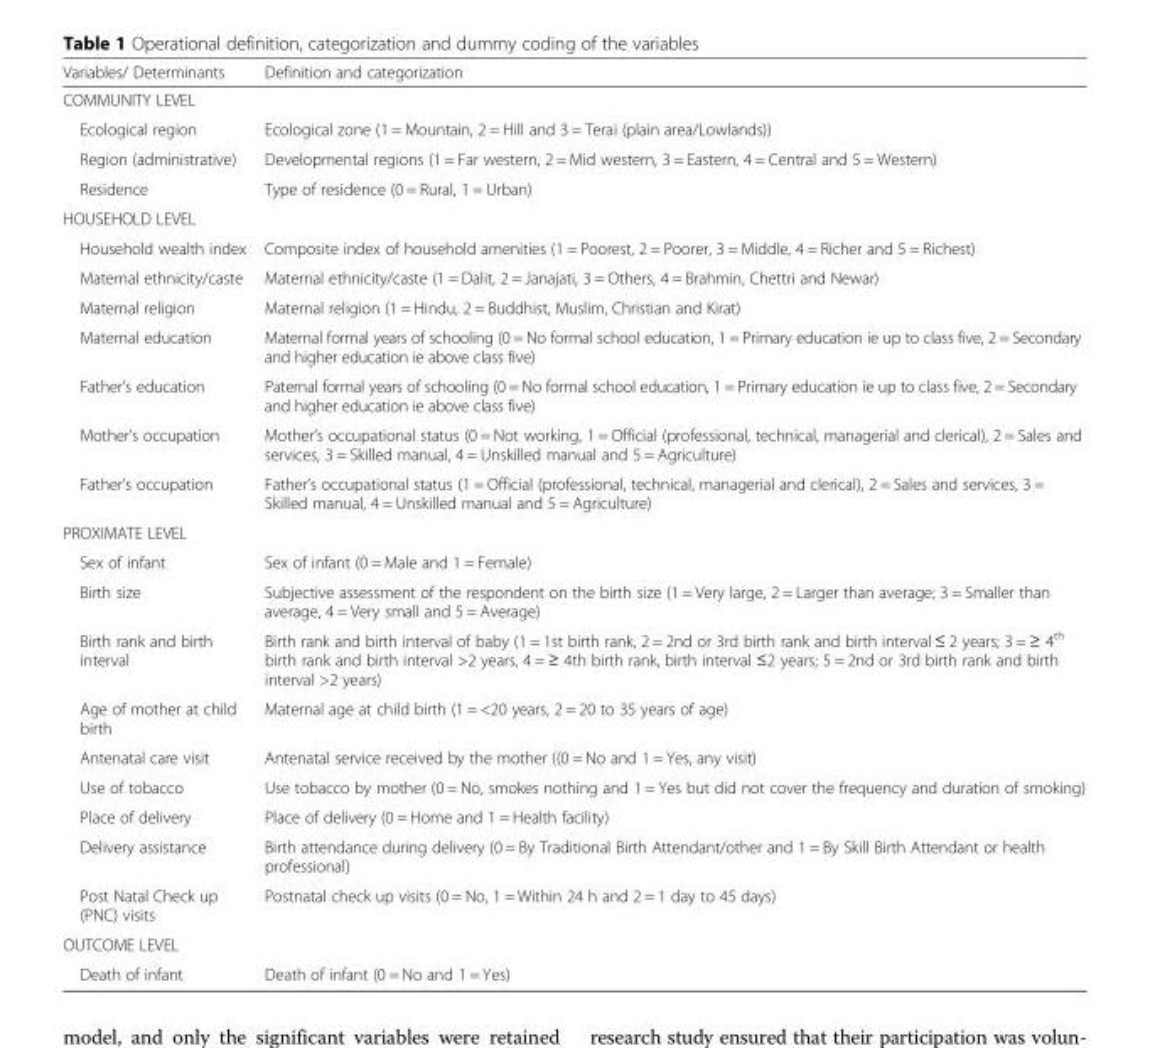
<table><thead><tr><td>Variables/ Determinants</td><td>Definition and categorization</td></tr></thead><tbody><tr><td colspan="2">COMMUNITY LEVEL</td></tr><tr><td>Ecological region</td><td>Ecological zone (1 = Mountain, 2 = Hill and 3 = Terai (plain area/Lowlands))</td></tr><tr><td>Region (administrative)</td><td>Developmental regions (1 = Far western, 2 = Mid western, 3 = Eastern, 4 = Central and 5 = Western)</td></tr><tr><td>Residence</td><td>Type of residence (0 = Rural, 1 = Urban)</td></tr><tr><td colspan="2">HOUSEHOLD LEVEL</td></tr><tr><td>Household wealth index</td><td>Composite index of household amenities (1 = Poorest, 2 = Poorer, 3 = Middle, 4 = Richer and 5 = Richest)</td></tr><tr><td>Maternal ethnicity/caste</td><td>Maternal ethnicity/caste (1 = Dalit, 2 = Janajati, 3 = Others, 4 = Brahmin, Chettri and Newar)</td></tr><tr><td>Maternal religion</td><td>Maternal religion (1 = Hindu, 2 = Buddhist, Muslim, Christian and Kirat)</td></tr><tr><td>Maternal education</td><td>Maternal formal years of schooling (0 = No formal school education, 1 = Primary education ie up to class five, 2 = Secondary and higher education ie above class five)</td></tr><tr><td>Father’s education</td><td>Paternal formal years of schooling (0 = No formal school education, 1 = Primary education ie up to class five, 2 = Secondary and higher education ie above class five)</td></tr><tr><td>Mother’s occupation</td><td>Mother’s occupational status (0 = Not working, 1 = Official (professional, technical, managerial and clerical), 2 = Sales and services, 3 = Skilled manual, 4 = Unskilled manual and 5 = Agriculture)</td></tr><tr><td>Father’s occupation</td><td>Father’s occupational status (1 = Official (professional, technical, managerial and clerical), 2 = Sales and services, 3 = Skilled manual, 4 = Unskilled manual and 5 = Agriculture)</td></tr><tr><td colspan="2">PROXIMATE LEVEL</td></tr><tr><td>Sex of infant</td><td>Sex of infant (0 = Male and 1 = Female)</td></tr><tr><td>Birth size</td><td>Subjective assessment of the respondent on the birth size (1 = Very large, 2 = Larger than average; 3 = Smaller than average, 4 = Very small and 5 = Average)</td></tr><tr><td>Birth rank and birth interval</td><td>Birth rank and birth interval of baby (1 = 1st birth rank, 2 = 2nd or 3rd birth rank and birth interval ≤ 2 years; 3 = ≥ 4<sup>th</sup> birth rank and birth interval &gt;2 years, 4 = ≥ 4th birth rank, birth interval ≤2 years; 5 = 2nd or 3rd birth rank and birth interval &gt;2 years)</td></tr><tr><td>Age of mother at child birth</td><td>Maternal age at child birth (1 = &lt;20 years, 2 = 20 to 35 years of age)</td></tr><tr><td>Antenatal care visit</td><td>Antenatal service received by the mother ((0 = No and 1 = Yes, any visit)</td></tr><tr><td>Use of tobacco</td><td>Use tobacco by mother (0 = No, smokes nothing and 1 = Yes but did not cover the frequency and duration of smoking)</td></tr><tr><td>Place of delivery</td><td>Place of delivery (0 = Home and 1 = Health facility)</td></tr><tr><td>Delivery assistance</td><td>Birth attendance during delivery (0 = By Traditional Birth Attendant/other and 1 = By Skill Birth Attendant or health professional)</td></tr><tr><td>Post Natal Check up (PNC) visits</td><td>Postnatal check up visits (0 = No, 1 = Within 24 h and 2 = 1 day to 45 days)</td></tr><tr><td colspan="2">OUTCOME LEVEL</td></tr><tr><td>Death of infant</td><td>Death of infant (0 = No and 1 = Yes)</td></tr></tbody></table>